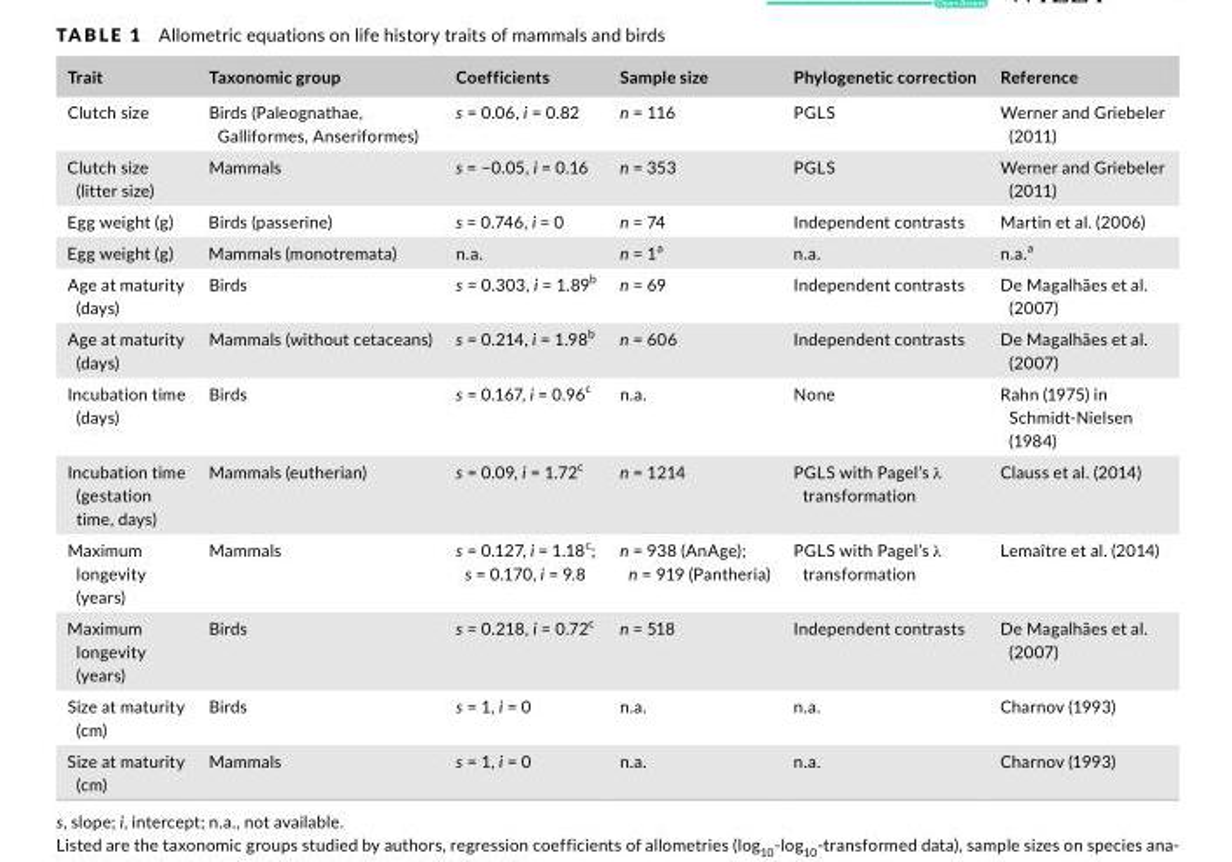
<table><thead><tr><td>Trait</td><td>Taxonomic group</td><td>Coefficients</td><td>Sample size</td><td>Phylogenetic correction</td><td>Reference</td></tr></thead><tbody><tr><td>Clutch size</td><td>Birds (Paleognathae, Galliformes, Anseriformes)</td><td>s = 0.06, i = 0.82</td><td>n = 116</td><td>PGLS</td><td>Werner and Griebeler (2011)</td></tr><tr><td>Clutch size (litter size)</td><td>Mammals</td><td>s = −0.05, i = 0.16</td><td>n = 353</td><td>PGLS</td><td>Werner and Griebeler (2011)</td></tr><tr><td>Egg weight (g)</td><td>Birds (passerine)</td><td>s = 0.746, i = 0</td><td>n = 74</td><td>Independent contrasts</td><td>Martin et al. (2006)</td></tr><tr><td>Egg weight (g)</td><td>Mammals (monotremata)</td><td>n.a.</td><td>n = 1<sup>a</sup></td><td>n.a.</td><td>n.a.<sup>a</sup></td></tr><tr><td>Age at maturity (days)</td><td>Birds</td><td>s = 0.303, i = 1.89<sup>b</sup></td><td>n = 69</td><td>Independent contrasts</td><td>De Magalhães et al. (2007)</td></tr><tr><td>Age at maturity (days)</td><td>Mammals (without cetaceans)</td><td>s = 0.214, i = 1.98<sup>b</sup></td><td>n = 606</td><td>Independent contrasts</td><td>De Magalhães et al. (2007)</td></tr><tr><td>Incubation time (days)</td><td>Birds</td><td>s = 0.167, i = 0.96<sup>c</sup></td><td>n.a.</td><td>None</td><td>Rahn (1975) in Schmidt- Nielsen (1984)</td></tr><tr><td>Incubation time (gestation time, days)</td><td>Mammals (eutherian)</td><td>s = 0.09, i = 1.72<sup>c</sup></td><td>n = 1214</td><td>PGLS with Pagel’s λ transformation</td><td>Clauss et al. (2014)</td></tr><tr><td>Maximum longevity (years)</td><td>Mammals</td><td>s = 0.127, i = 1.18<sup>c</sup>; s = 0.170, i = 9.8</td><td>n = 938 (AnAge); n = 919 (Pantheria)</td><td>PGLS with Pagel’s λ transformation</td><td>Lemaître et al. (2014)</td></tr><tr><td>Maximum longevity (years)</td><td>Birds</td><td>s = 0.218, i = 0.72<sup>c</sup></td><td>n = 518</td><td>Independent contrasts</td><td>De Magalhães et al. (2007)</td></tr><tr><td>Size at maturity (cm)</td><td>Birds</td><td>s = 1, i = 0</td><td>n.a.</td><td>n.a.</td><td>Charnov (1993)</td></tr><tr><td>Size at maturity (cm)</td><td>Mammals</td><td>s = 1, i = 0</td><td>n.a.</td><td>n.a.</td><td>Charnov (1993)</td></tr></tbody></table>